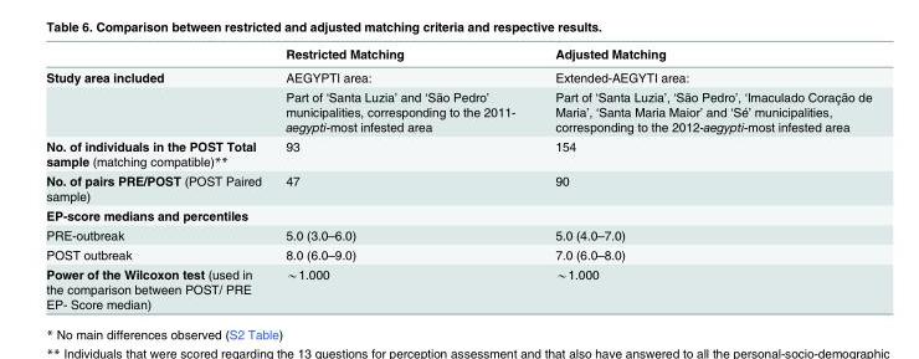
<table><thead><tr><td></td><td>Restricted Matching</td><td>Adjusted Matching</td></tr></thead><tbody><tr><td rowspan="2">Study area included</td><td>AEGYPTI area:</td><td>Extended-AEGYTI area:</td></tr><tr><td>Part of ‘Santa Luzia’ and ‘São Pedro’ municipalities, corresponding to the 2011- aegypti-most infested area</td><td>Part of ‘Santa Luzia’, ‘São Pedro’, ‘Imaculado Coração de Maria’, ‘Santa Maria Maior’ and ‘Sé’ municipalities, corresponding to the 2012-aegypti-most infested area</td></tr><tr><td>No. of individuals in the POST Total sample (matching compatible)**</td><td>93</td><td>154</td></tr><tr><td>No. of pairs PRE/POST (POST Paired sample)</td><td>47</td><td>90</td></tr><tr><td colspan="3">EP-score medians and percentiles</td></tr><tr><td>PRE-outbreak</td><td>5.0 (3.0–6.0)</td><td>5.0 (4.0–7.0)</td></tr><tr><td>POST outbreak</td><td>8.0 (6.0–9.0)</td><td>7.0 (6.0–8.0)</td></tr><tr><td>Power of the Wilcoxon test (used in the comparison between POST/ PRE EP- Score median)</td><td>*1.000</td><td>*1.000</td></tr></tbody></table>